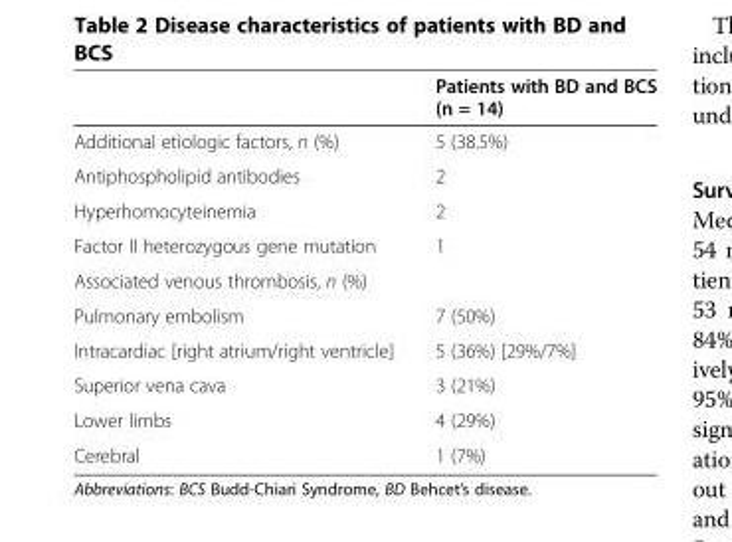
<table><thead><tr><td></td><td>Patients with BD and BCS (n = 14)</td></tr></thead><tbody><tr><td>Additional etiologic factors, n (%)</td><td>5 (38.5%)</td></tr><tr><td>Antiphospholipid antibodies</td><td>2</td></tr><tr><td>Hyperhomocyteinemia</td><td>2</td></tr><tr><td>Factor II heterozygous gene mutation</td><td>1</td></tr><tr><td colspan="2">Associated venous thrombosis, n (%)</td></tr><tr><td>Pulmonary embolism</td><td>7 (50%)</td></tr><tr><td>Intracardiac [right atrium/right ventricle]</td><td>5 (36%) [29%/7%]</td></tr><tr><td>Superior vena cava</td><td>3 (21%)</td></tr><tr><td>Lower limbs</td><td>4 (29%)</td></tr><tr><td>Cerebral</td><td>1 (7%)</td></tr></tbody></table>